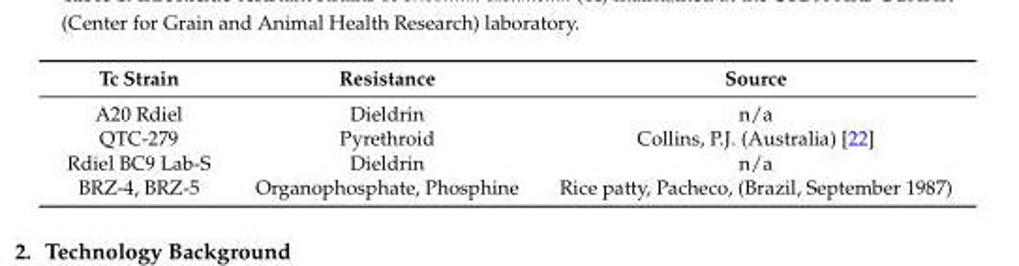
<table><thead><tr><td>Tc Strain</td><td>Resistance</td><td>Source</td></tr></thead><tbody><tr><td>A20 Rdiel</td><td>Dieldrin</td><td>n/a</td></tr><tr><td>QTC-279</td><td>Pyrethroid</td><td>Collins, P.J. (Australia) [22]</td></tr><tr><td>Rdiel BC9 Lab-S</td><td>Dieldrin</td><td>n/a</td></tr><tr><td>BRZ-4, BRZ-5</td><td>Organophosphate, Phosphine</td><td>Rice patty, Pacheco, (Brazil, September 1987)</td></tr></tbody></table>